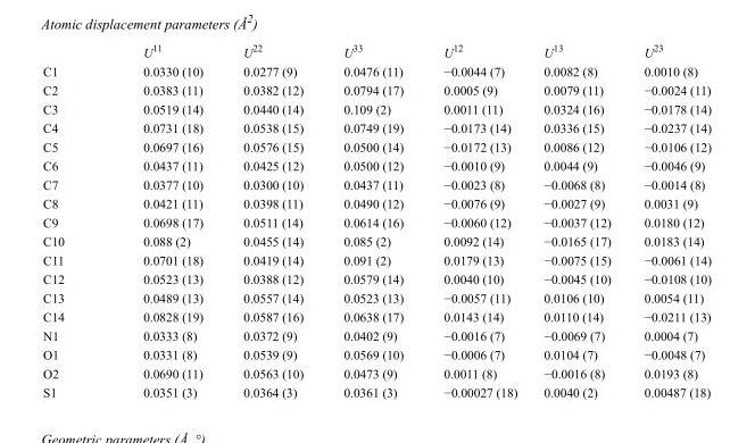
<table><thead><tr><td></td><td>U<sup>11</sup></td><td>U<sup>22</sup></td><td>U<sup>33</sup></td><td>U<sup>12</sup></td><td>U<sup>13</sup></td><td>U<sup>23</sup></td></tr></thead><tbody><tr><td>C1</td><td>0.0330 (10)</td><td>0.0277 (9)</td><td>0.0476 (11)</td><td>−0.0044 (7)</td><td>0.0082 (8)</td><td>0.0010 (8)</td></tr><tr><td>C2</td><td>0.0383 (11)</td><td>0.0382 (12)</td><td>0.0794 (17)</td><td>0.0005 (9)</td><td>0.0079 (11)</td><td>−0.0024 (11)</td></tr><tr><td>C3</td><td>0.0519 (14)</td><td>0.0440 (14)</td><td>0.109 (2)</td><td>0.0011 (11)</td><td>0.0324 (16)</td><td>−0.0178 (14)</td></tr><tr><td>C4</td><td>0.0731 (18)</td><td>0.0538 (15)</td><td>0.0749 (19)</td><td>−0.0173 (14)</td><td>0.0336 (15)</td><td>−0.0237 (14)</td></tr><tr><td>C5</td><td>0.0697 (16)</td><td>0.0576 (15)</td><td>0.0500 (14)</td><td>−0.0172 (13)</td><td>0.0086 (12)</td><td>−0.0106 (12)</td></tr><tr><td>C6</td><td>0.0437 (11)</td><td>0.0425 (12)</td><td>0.0500 (12)</td><td>−0.0010 (9)</td><td>0.0044 (9)</td><td>−0.0046 (9)</td></tr><tr><td>C7</td><td>0.0377 (10)</td><td>0.0300 (10)</td><td>0.0437 (11)</td><td>−0.0023 (8)</td><td>−0.0068 (8)</td><td>−0.0014 (8)</td></tr><tr><td>C8</td><td>0.0421 (11)</td><td>0.0398 (11)</td><td>0.0490 (12)</td><td>−0.0076 (9)</td><td>−0.0027 (9)</td><td>0.0031 (9)</td></tr><tr><td>C9</td><td>0.0698 (17)</td><td>0.0511 (14)</td><td>0.0614 (16)</td><td>−0.0060 (12)</td><td>−0.0037 (12)</td><td>0.0180 (12)</td></tr><tr><td>C10</td><td>0.088 (2)</td><td>0.0455 (14)</td><td>0.085 (2)</td><td>0.0092 (14)</td><td>−0.0165 (17)</td><td>0.0183 (14)</td></tr><tr><td>C11</td><td>0.0701 (18)</td><td>0.0419 (14)</td><td>0.091 (2)</td><td>0.0179 (13)</td><td>−0.0075 (15)</td><td>−0.0061 (14)</td></tr><tr><td>C12</td><td>0.0523 (13)</td><td>0.0388 (12)</td><td>0.0579 (14)</td><td>0.0040 (10)</td><td>−0.0045 (10)</td><td>−0.0108 (10)</td></tr><tr><td>C13</td><td>0.0489 (13)</td><td>0.0557 (14)</td><td>0.0523 (13)</td><td>−0.0057 (11)</td><td>0.0106 (10)</td><td>0.0054 (11)</td></tr><tr><td>C14</td><td>0.0828 (19)</td><td>0.0587 (16)</td><td>0.0638 (17)</td><td>0.0143 (14)</td><td>0.0110 (14)</td><td>−0.0211 (13)</td></tr><tr><td>N1</td><td>0.0333 (8)</td><td>0.0372 (9)</td><td>0.0402 (9)</td><td>−0.0016 (7)</td><td>−0.0069 (7)</td><td>0.0004 (7)</td></tr><tr><td>O1</td><td>0.0331 (8)</td><td>0.0539 (9)</td><td>0.0569 (10)</td><td>−0.0006 (7)</td><td>0.0104 (7)</td><td>−0.0048 (7)</td></tr><tr><td>O2</td><td>0.0690 (11)</td><td>0.0563 (10)</td><td>0.0473 (9)</td><td>0.0011 (8)</td><td>−0.0016 (8)</td><td>0.0193 (8)</td></tr><tr><td>S1</td><td>0.0351 (3)</td><td>0.0364 (3)</td><td>0.0361 (3)</td><td>−0.00027 (18)</td><td>0.0040 (2)</td><td>0.00487 (18)</td></tr></tbody></table>